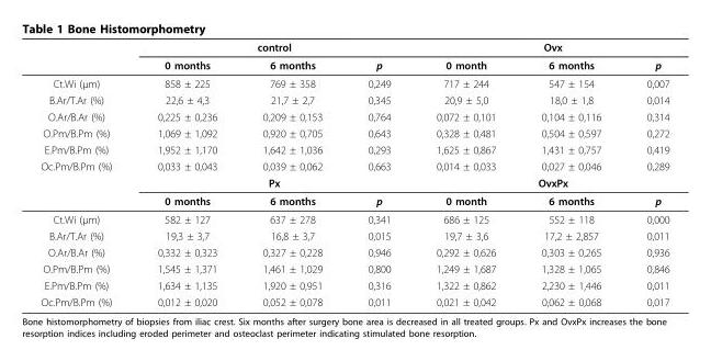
<table><thead><tr><td rowspan="2"></td><td colspan="3">control</td><td colspan="3">Ovx</td></tr><tr><td>0 months</td><td>6 months</td><td>p</td><td>0 month</td><td>6 months</td><td>p</td></tr></thead><tbody><tr><td>Ct.Wi (μm)</td><td>858 ± 225</td><td>769 ± 358</td><td>0,249</td><td>717 ± 244</td><td>547 ± 154</td><td>0,007</td></tr><tr><td>B.Ar/T.Ar (%)</td><td>22,6 ± 4,3</td><td>21,7 ± 2,7</td><td>0,345</td><td>20,9 ± 5,0</td><td>18,0 ± 1,8</td><td>0,014</td></tr><tr><td>O.Ar/B.Ar (%)</td><td>0,225 ± 0,236</td><td>0,209 ± 0,153</td><td>0,764</td><td>0,072 ± 0,101</td><td>0,104 ± 0,116</td><td>0,314</td></tr><tr><td>O.Pm/B.Pm (%)</td><td>1,069 ± 1,092</td><td>0,920 ± 0,705</td><td>0,643</td><td>0,328 ± 0,481</td><td>0,504 ± 0,597</td><td>0,272</td></tr><tr><td>E.Pm/B.Pm (%)</td><td>1,952 ± 1,170</td><td>1,642 ± 1,036</td><td>0,293</td><td>1,625 ± 0,867</td><td>1,431 ± 0,757</td><td>0,419</td></tr><tr><td rowspan="3">Oc.Pm/B.Pm (%)</td><td>0,033 ± 0,043</td><td>0,039 ± 0,062</td><td>0,663</td><td>0,014 ± 0,033</td><td>0,027 ± 0,046</td><td>0,289</td></tr><tr><td colspan="3">Px</td><td colspan="3">OvxPx</td></tr><tr><td>0 months</td><td>6 months</td><td>p</td><td>0 month</td><td>6 months</td><td>p</td></tr><tr><td>Ct.Wi (μm)</td><td>582 ± 127</td><td>637 ± 278</td><td>0,341</td><td>686 ± 125</td><td>552 ± 118</td><td>0,000</td></tr><tr><td>B.Ar/T.Ar (%)</td><td>19,3 ± 3,7</td><td>16,8 ± 3,7</td><td>0,015</td><td>19,7 ± 3,6</td><td>17,2 ± 2,857</td><td>0,011</td></tr><tr><td>O.Ar/B.Ar (%)</td><td>0,332 ± 0,323</td><td>0,327 ± 0,228</td><td>0,946</td><td>0,292 ± 0,626</td><td>0,303 ± 0,265</td><td>0,936</td></tr><tr><td>O.Pm/B.Pm (%)</td><td>1,545 ± 1,371</td><td>1,461 ± 1,029</td><td>0,800</td><td>1,249 ± 1,687</td><td>1,328 ± 1,065</td><td>0,846</td></tr><tr><td>E.Pm/B.Pm (%)</td><td>1,634 ± 1,135</td><td>1,920 ± 0,951</td><td>0,316</td><td>1,322 ± 0,862</td><td>2,230 ± 1,446</td><td>0,011</td></tr><tr><td>Oc.Pm/B.Pm (%)</td><td>0,012 ± 0,020</td><td>0,052 ± 0,078</td><td>0,011</td><td>0,021 ± 0,042</td><td>0,062 ± 0,068</td><td>0,017</td></tr></tbody></table>